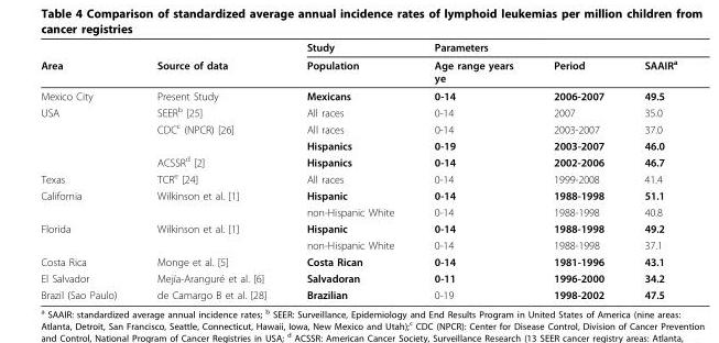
<table><thead><tr><td rowspan="2">Area</td><td rowspan="2">Source of data</td><td rowspan="2">Study Population</td><td rowspan="2">Parameters Age range years ye</td><td rowspan="2">Period</td><td rowspan="2">SAAIR<sup>a</sup></td></tr><tr></tr></thead><tbody><tr><td>Mexico City</td><td>Present Study</td><td>Mexicans</td><td>0-14</td><td>2006-2007</td><td>49.5</td></tr><tr><td rowspan="4">USA</td><td>SEER<sup>b</sup> [25]</td><td>All races</td><td>0-14</td><td>2007</td><td>35.0</td></tr><tr><td>CDC<sup>c</sup> (NPCR) [26]</td><td>All races</td><td>0-14</td><td>2003-2007</td><td>37.0</td></tr><tr><td></td><td>Hispanics</td><td>0-19</td><td>2003-2007</td><td>46.0</td></tr><tr><td>ACSSR<sup>d</sup> [2]</td><td>Hispanics</td><td>0-14</td><td>2002-2006</td><td>46.7</td></tr><tr><td>Texas</td><td>TCR<sup>e</sup> [24]</td><td>All races</td><td>0-14</td><td>1999-2008</td><td>41.4</td></tr><tr><td rowspan="2">California</td><td>Wilkinson et al. [1]</td><td>Hispanic</td><td>0-14</td><td>1988-1998</td><td>51.1</td></tr><tr><td></td><td>non-Hispanic White</td><td>0-14</td><td>1988-1998</td><td>40.8</td></tr><tr><td rowspan="2">Florida</td><td>Wilkinson et al. [1]</td><td>Hispanic</td><td>0-14</td><td>1988-1998</td><td>49.2</td></tr><tr><td></td><td>non-Hispanic White</td><td>0-14</td><td>1988-1998</td><td>37.1</td></tr><tr><td>Costa Rica</td><td>Monge et al. [5]</td><td>Costa Rican</td><td>0-14</td><td>1981-1996</td><td>43.1</td></tr><tr><td>El Salvador</td><td>Mejía-Aranguré et al. [6]</td><td>Salvadoran</td><td>0-11</td><td>1996-2000</td><td>34.2</td></tr><tr><td>Brazil (Sao Paulo)</td><td>de Camargo B et al. [28]</td><td>Brazilian</td><td>0-19</td><td>1998-2002</td><td>47.5</td></tr></tbody></table>